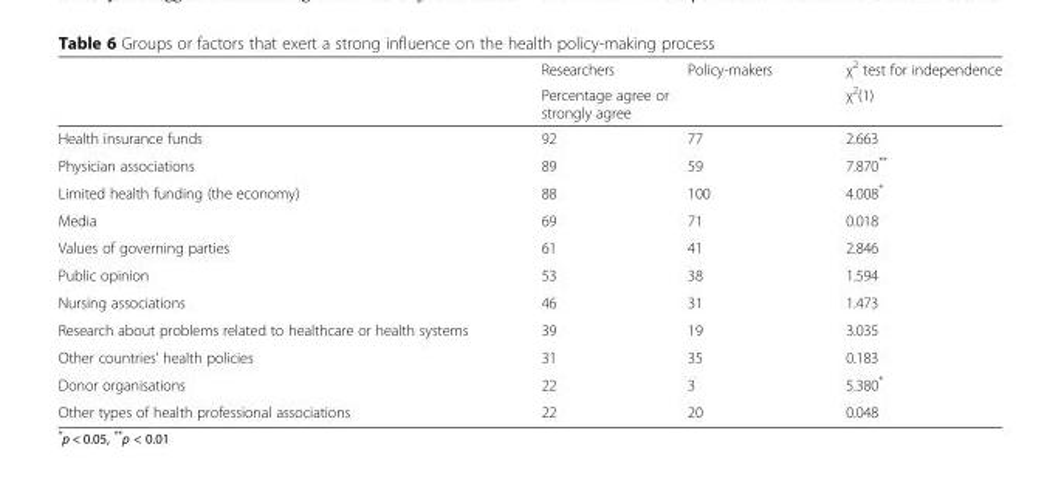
<table><thead><tr><td rowspan="2"></td><td>Researchers</td><td>Policy-makers</td><td rowspan="2">χ<sup>2</sup> test for independence χ<sup>2</sup>(1)</td></tr><tr><td colspan="2">Percentage agree or strongly agree</td></tr></thead><tbody><tr><td>Health insurance funds</td><td>92</td><td>77</td><td>2.663</td></tr><tr><td>Physician associations</td><td>89</td><td>59</td><td>7.870**</td></tr><tr><td>Limited health funding (the economy)</td><td>88</td><td>100</td><td>4.008*</td></tr><tr><td>Media</td><td>69</td><td>71</td><td>0.018</td></tr><tr><td>Values of governing parties</td><td>61</td><td>41</td><td>2.846</td></tr><tr><td>Public opinion</td><td>53</td><td>38</td><td>1.594</td></tr><tr><td>Nursing associations</td><td>46</td><td>31</td><td>1.473</td></tr><tr><td>Research about problems related to healthcare or health systems</td><td>39</td><td>19</td><td>3.035</td></tr><tr><td>Other countries’ health policies</td><td>31</td><td>35</td><td>0.183</td></tr><tr><td>Donor organisations</td><td>22</td><td>3</td><td>5.380*</td></tr><tr><td>Other types of health professional associations</td><td>22</td><td>20</td><td>0.048</td></tr></tbody></table>